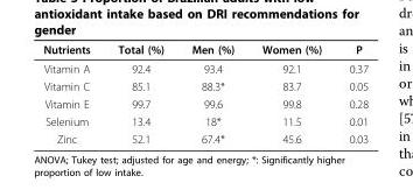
<table><thead><tr><td>Nutrients</td><td>Total (%)</td><td>Men (%)</td><td>Women (%)</td><td>P</td></tr></thead><tbody><tr><td>Vitamin A</td><td>92.4</td><td>93.4</td><td>92.1</td><td>0.37</td></tr><tr><td>Vitamin C</td><td>85.1</td><td>88.3*</td><td>83.7</td><td>0.05</td></tr><tr><td>Vitamin E</td><td>99.7</td><td>99.6</td><td>99.8</td><td>0.28</td></tr><tr><td>Selenium</td><td>13.4</td><td>18*</td><td>11.5</td><td>0.01</td></tr><tr><td>Zinc</td><td>52.1</td><td>67.4*</td><td>45.6</td><td>0.03</td></tr></tbody></table>